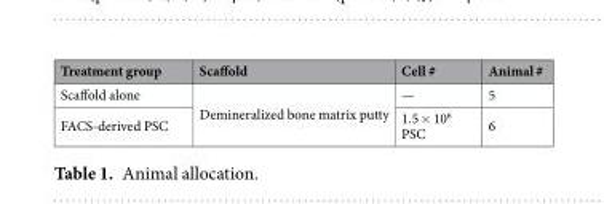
<table><thead><tr><td>Treatment group</td><td>Scaffold</td><td>Cell #</td><td>Animal #</td></tr></thead><tbody><tr><td>Scaffold alone</td><td rowspan="2">Demineralized bone matrix putty</td><td>—</td><td>5</td></tr><tr><td>FACS-derived PSC</td><td>1.5 × 10<sup>6</sup> PSC</td><td>6</td></tr></tbody></table>